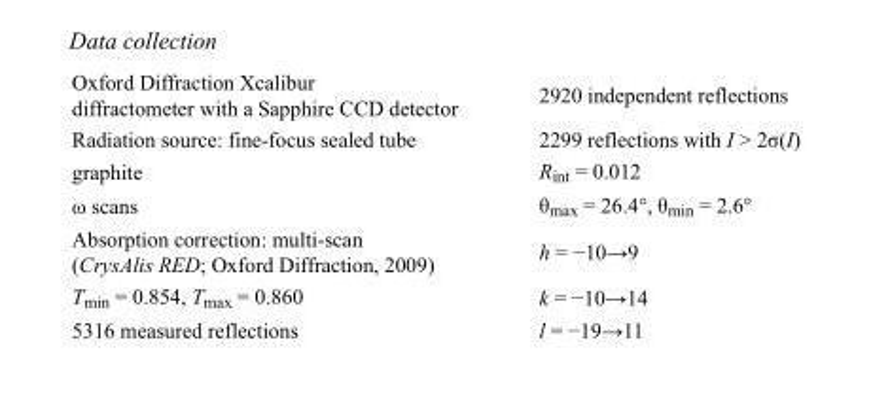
<table><tbody><tr><td>Oxford Diffraction Xcalibur diffractometer with a Sapphire CCD detector</td><td>2920 independent reflections</td></tr><tr><td>Radiation source: fine-focus sealed tube</td><td>2299 reflections with I &gt; 2σ(I)</td></tr><tr><td>graphite</td><td>R<sub>int</sub> = 0.012</td></tr><tr><td>ω scans</td><td>θ<sub>max</sub> = 26.4°, θ<sub>min</sub> = 2.6°</td></tr><tr><td>Absorption correction: multi-scan (CrysAlis RED; Oxford Diffraction, 2009)</td><td>h = −10→9</td></tr><tr><td>T<sub>min</sub> = 0.854, T<sub>max</sub> = 0.860</td><td>k = −10→14</td></tr><tr><td>5316 measured reflections</td><td>l = −19→11</td></tr></tbody></table>